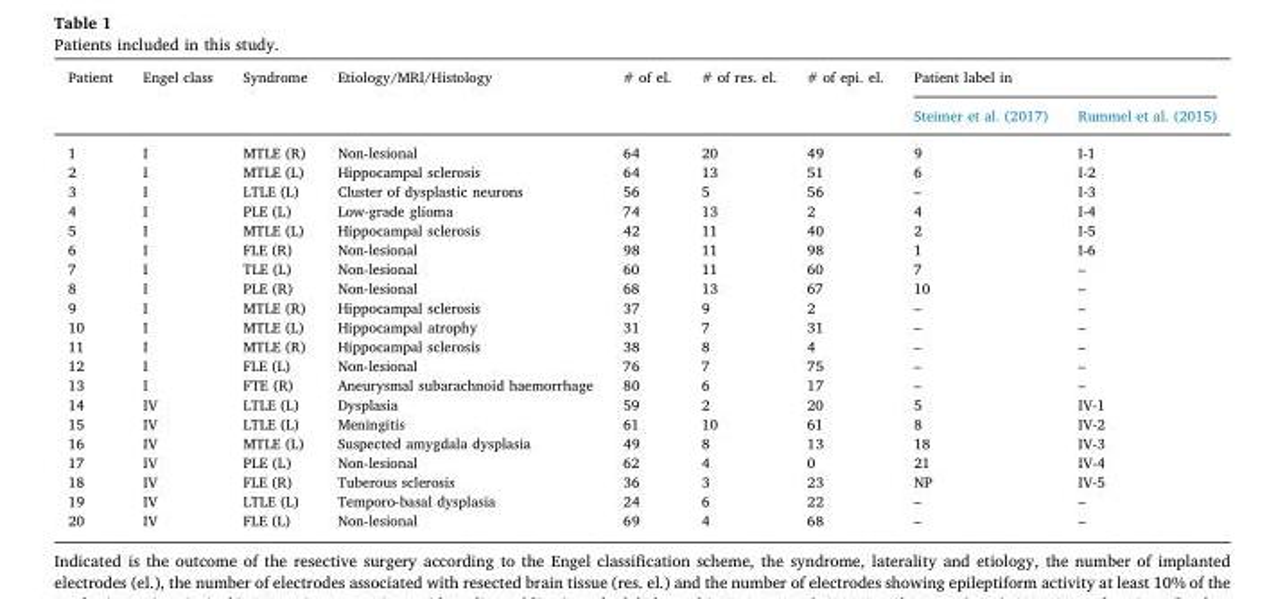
<table><thead><tr><td rowspan="2">Patient</td><td rowspan="2">Engel class</td><td rowspan="2">Syndrome</td><td rowspan="2">Etiology/MRI/Histology</td><td rowspan="2"># of el.</td><td rowspan="2"># of res. el.</td><td rowspan="2"># of epi. el.</td><td colspan="2">Patient label in</td></tr><tr><td>Steimer et al. (2017)</td><td>Rummel et al. (2015)</td></tr></thead><tbody><tr><td>1</td><td>I</td><td>MTLE (R)</td><td>Non-lesional</td><td>64</td><td>20</td><td>49</td><td>9</td><td>I-1</td></tr><tr><td>2</td><td>I</td><td>MTLE (L)</td><td>Hippocampal sclerosis</td><td>64</td><td>13</td><td>51</td><td>6</td><td>I-2</td></tr><tr><td>3</td><td>I</td><td>LTLE (L)</td><td>Cluster of dysplastic neurons</td><td>56</td><td>5</td><td>56</td><td>–</td><td>I-3</td></tr><tr><td>4</td><td>I</td><td>PLE (L)</td><td>Low-grade glioma</td><td>74</td><td>13</td><td>2</td><td>4</td><td>I-4</td></tr><tr><td>5</td><td>I</td><td>MTLE (L)</td><td>Hippocampal sclerosis</td><td>42</td><td>11</td><td>40</td><td>2</td><td>I-5</td></tr><tr><td>6</td><td>I</td><td>FLE (R)</td><td>Non-lesional</td><td>98</td><td>11</td><td>98</td><td>1</td><td>I-6</td></tr><tr><td>7</td><td>I</td><td>TLE (L)</td><td>Non-lesional</td><td>60</td><td>11</td><td>60</td><td>7</td><td>–</td></tr><tr><td>8</td><td>I</td><td>PLE (R)</td><td>Non-lesional</td><td>68</td><td>13</td><td>67</td><td>10</td><td>–</td></tr><tr><td>9</td><td>I</td><td>MTLE (R)</td><td>Hippocampal sclerosis</td><td>37</td><td>9</td><td>2</td><td>–</td><td>–</td></tr><tr><td>10</td><td>I</td><td>MTLE (L)</td><td>Hippocampal atrophy</td><td>31</td><td>7</td><td>31</td><td>–</td><td>–</td></tr><tr><td>11</td><td>I</td><td>MTLE (R)</td><td>Hippocampal sclerosis</td><td>38</td><td>8</td><td>4</td><td>–</td><td>–</td></tr><tr><td>12</td><td>I</td><td>FLE (L)</td><td>Non-lesional</td><td>76</td><td>7</td><td>75</td><td>–</td><td>–</td></tr><tr><td>13</td><td>I</td><td>FTE (R)</td><td>Aneurysmal subarachnoid haemorrhage</td><td>80</td><td>6</td><td>17</td><td>–</td><td>–</td></tr><tr><td>14</td><td>IV</td><td>LTLE (L)</td><td>Dysplasia</td><td>59</td><td>2</td><td>20</td><td>5</td><td>IV-1</td></tr><tr><td>15</td><td>IV</td><td>LTLE (L)</td><td>Meningitis</td><td>61</td><td>10</td><td>61</td><td>8</td><td>IV-2</td></tr><tr><td>16</td><td>IV</td><td>MTLE (L)</td><td>Suspected amygdala dysplasia</td><td>49</td><td>8</td><td>13</td><td>18</td><td>IV-3</td></tr><tr><td>17</td><td>IV</td><td>PLE (L)</td><td>Non-lesional</td><td>62</td><td>4</td><td>0</td><td>21</td><td>IV-4</td></tr><tr><td>18</td><td>IV</td><td>FLE (R)</td><td>Tuberous sclerosis</td><td>36</td><td>3</td><td>23</td><td>NP</td><td>IV-5</td></tr><tr><td>19</td><td>IV</td><td>LTLE (L)</td><td>Temporo-basal dysplasia</td><td>24</td><td>6</td><td>22</td><td>–</td><td>–</td></tr><tr><td>20</td><td>IV</td><td>FLE (L)</td><td>Non-lesional</td><td>69</td><td>4</td><td>68</td><td>–</td><td>–</td></tr></tbody></table>